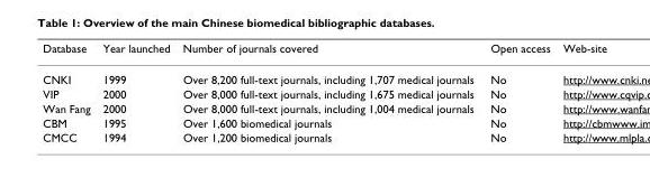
<table><thead><tr><td>Database</td><td>Year launched</td><td>Number of journals covered</td><td>Open access</td><td>Web-site</td></tr></thead><tbody><tr><td>CNKI</td><td>1999</td><td>Over 8,200 full-text journals, including 1,707 medical journals</td><td>No</td><td></td></tr><tr><td>VIP</td><td>2000</td><td>Over 8,000 full-text journals, including 1,675 medical journals</td><td>No</td><td></td></tr><tr><td>Wan Fang</td><td>2000</td><td>Over 8,000 full-text journals, including 1,004 medical journals</td><td>No</td><td></td></tr><tr><td>CBM</td><td>1995</td><td>Over 1,600 biomedical journals</td><td>No</td><td></td></tr><tr><td>CMCC</td><td>1994</td><td>Over 1,200 biomedical journals</td><td>No</td><td></td></tr></tbody></table>